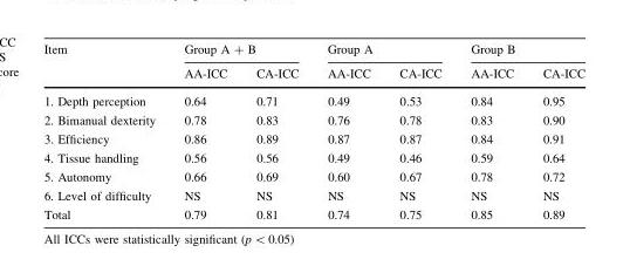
<table><thead><tr><td rowspan="2">Item</td><td colspan="2">Group A + B</td><td colspan="2">Group A</td><td colspan="2">Group B</td></tr><tr><td>AA-ICC</td><td>CA-ICC</td><td>AA-ICC</td><td>CA-ICC</td><td>AA-ICC</td><td>CA-ICC</td></tr></thead><tbody><tr><td>1. Depth perception</td><td>0.64</td><td>0.71</td><td>0.49</td><td>0.53</td><td>0.84</td><td>0.95</td></tr><tr><td>2. Bimanual dexterity</td><td>0.78</td><td>0.83</td><td>0.76</td><td>0.78</td><td>0.83</td><td>0.90</td></tr><tr><td>3. Efficiency</td><td>0.86</td><td>0.89</td><td>0.87</td><td>0.87</td><td>0.84</td><td>0.91</td></tr><tr><td>4. Tissue handling</td><td>0.56</td><td>0.56</td><td>0.49</td><td>0.46</td><td>0.59</td><td>0.64</td></tr><tr><td>5. Autonomy</td><td>0.66</td><td>0.69</td><td>0.60</td><td>0.67</td><td>0.78</td><td>0.72</td></tr><tr><td>6. Level of difficulty</td><td>NS</td><td>NS</td><td>NS</td><td>NS</td><td>NS</td><td>NS</td></tr><tr><td>Total</td><td>0.79</td><td>0.81</td><td>0.74</td><td>0.75</td><td>0.85</td><td>0.89</td></tr></tbody></table>